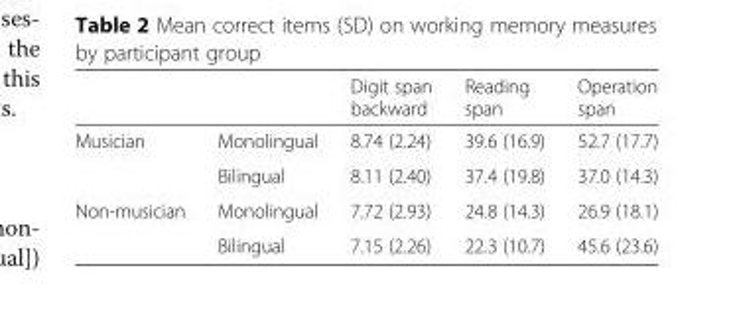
<table><thead><tr><td></td><td></td><td>Digit span backward</td><td>Reading span</td><td>Operation span</td></tr></thead><tbody><tr><td rowspan="2">Musician</td><td>Monolingual</td><td>8.74 (2.24)</td><td>39.6 (16.9)</td><td>52.7 (17.7)</td></tr><tr><td>Bilingual</td><td>8.11 (2.40)</td><td>37.4 (19.8)</td><td>37.0 (14.3)</td></tr><tr><td rowspan="2">Non-musician</td><td>Monolingual</td><td>7.72 (2.93)</td><td>24.8 (14.3)</td><td>26.9 (18.1)</td></tr><tr><td>Bilingual</td><td>7.15 (2.26)</td><td>22.3 (10.7)</td><td>45.6 (23.6)</td></tr></tbody></table>